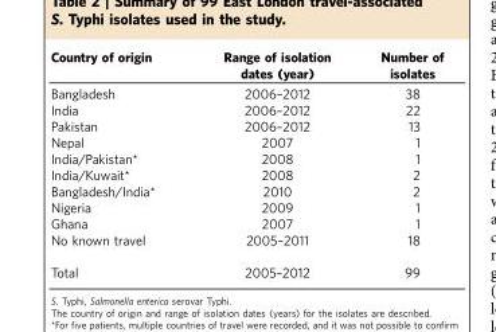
<table><thead><tr><td>Country of origin</td><td>Range of isolation dates (year)</td><td>Number of isolates</td></tr></thead><tbody><tr><td>Bangladesh</td><td>2006–2012</td><td>38</td></tr><tr><td>India</td><td>2006–2012</td><td>22</td></tr><tr><td>Pakistan</td><td>2006–2012</td><td>13</td></tr><tr><td>Nepal</td><td>2007</td><td>1</td></tr><tr><td>India/Pakistan*</td><td>2008</td><td>1</td></tr><tr><td>India/Kuwait*</td><td>2008</td><td>2</td></tr><tr><td>Bangladesh/India*</td><td>2010</td><td>2</td></tr><tr><td>Nigeria</td><td>2009</td><td>1</td></tr><tr><td>Ghana</td><td>2007</td><td>1</td></tr><tr><td>No known travel</td><td>2005–2011</td><td>18</td></tr><tr><td>Total</td><td>2005–2012</td><td>99</td></tr></tbody></table>